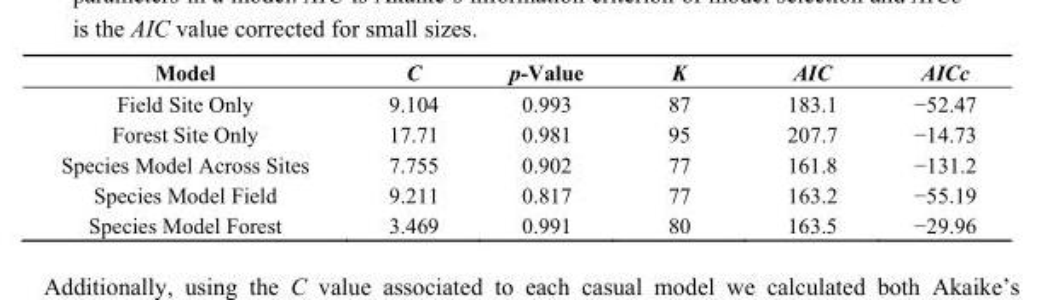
<table><thead><tr><td>Model</td><td>C</td><td>p-Value</td><td>K</td><td>AIC</td><td>AICc</td></tr></thead><tbody><tr><td>Field Site Only</td><td>9.104</td><td>0.993</td><td>87</td><td>183.1</td><td>−52.47</td></tr><tr><td>Forest Site Only</td><td>17.71</td><td>0.981</td><td>95</td><td>207.7</td><td>−14.73</td></tr><tr><td>Species Model Across Sites</td><td>7.755</td><td>0.902</td><td>77</td><td>161.8</td><td>−131.2</td></tr><tr><td>Species Model Field</td><td>9.211</td><td>0.817</td><td>77</td><td>163.2</td><td>−55.19</td></tr><tr><td>Species Model Forest</td><td>3.469</td><td>0.991</td><td>80</td><td>163.5</td><td>−29.96</td></tr></tbody></table>